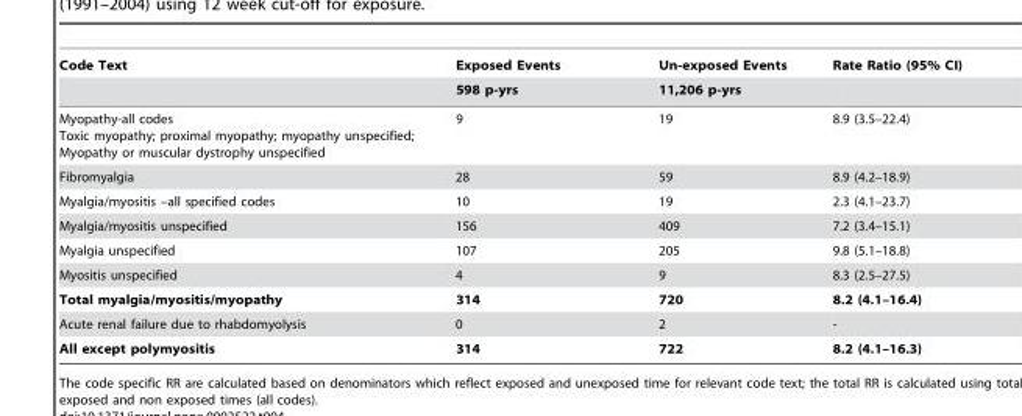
<table><thead><tr><td rowspan="2">Code Text</td><td rowspan="2">Exposed Events 598 p-yrs</td><td rowspan="2">Un-exposed Events 11,206 p-yrs</td><td rowspan="2">Rate Ratio (95% CI)</td></tr><tr></tr></thead><tbody><tr><td>Myopathy-all codes Toxic myopathy; proximal myopathy; myopathy unspecified; Myopathy or muscular dystrophy unspecified</td><td>9</td><td>19</td><td>8.9 (3.5–22.4)</td></tr><tr><td>Fibromyalgia</td><td>28</td><td>59</td><td>8.9 (4.2–18.9)</td></tr><tr><td>Myalgia/myositis –all specified codes</td><td>10</td><td>19</td><td>2.3 (4.1–23.7)</td></tr><tr><td>Myalgia/myositis unspecified</td><td>156</td><td>409</td><td>7.2 (3.4–15.1)</td></tr><tr><td>Myalgia unspecified</td><td>107</td><td>205</td><td>9.8 (5.1–18.8)</td></tr><tr><td>Myositis unspecified</td><td>4</td><td>9</td><td>8.3 (2.5–27.5)</td></tr><tr><td>Total myalgia/myositis/myopathy</td><td>314</td><td>720</td><td>8.2 (4.1–16.4)</td></tr><tr><td>Acute renal failure due to rhabdomyolysis</td><td>0</td><td>2</td><td>-</td></tr><tr><td>All except polymyositis</td><td>314</td><td>722</td><td>8.2 (4.1–16.3)</td></tr></tbody></table>